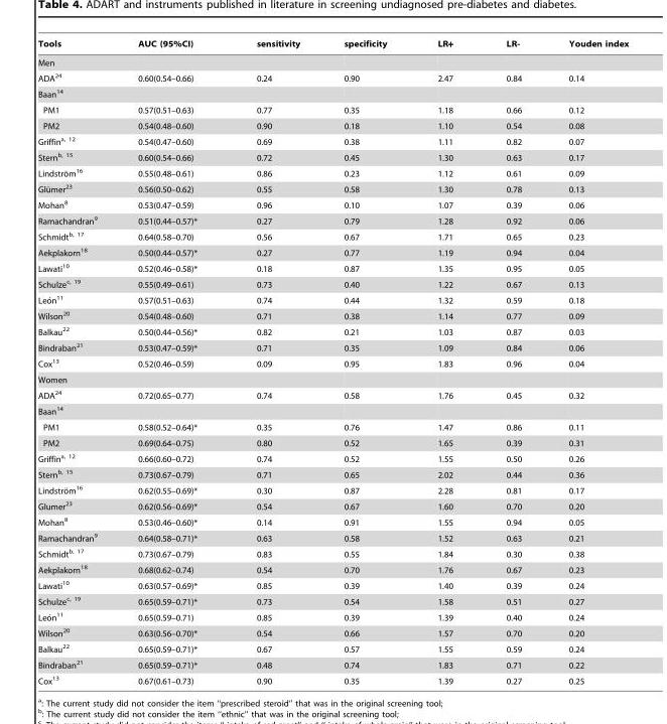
<table><thead><tr><td>Tools</td><td>AUC (95%CI)</td><td>sensitivity</td><td>specificity</td><td>LR+</td><td>LR-</td><td>Youden index</td></tr></thead><tbody><tr><td colspan="7">Men</td></tr><tr><td>ADA<sup>24</sup></td><td>0.60(0.54–0.66)</td><td>0.24</td><td>0.90</td><td>2.47</td><td>0.84</td><td>0.14</td></tr><tr><td colspan="7">Baan<sup>14</sup></td></tr><tr><td>PM1</td><td>0.57(0.51–0.63)</td><td>0.77</td><td>0.35</td><td>1.18</td><td>0.66</td><td>0.12</td></tr><tr><td>PM2</td><td>0.54(0.48–0.60)</td><td>0.90</td><td>0.18</td><td>1.10</td><td>0.54</td><td>0.08</td></tr><tr><td>Griffina, 12</td><td>0.54(0.47–0.60)</td><td>0.69</td><td>0.38</td><td>1.11</td><td>0.82</td><td>0.07</td></tr><tr><td>Stern<sup>b, 15</sup></td><td>0.60(0.54–0.66)</td><td>0.72</td><td>0.45</td><td>1.30</td><td>0.63</td><td>0.17</td></tr><tr><td>Lindstro¨m16</td><td>0.55(0.48–0.61)</td><td>0.86</td><td>0.23</td><td>1.12</td><td>0.61</td><td>0.09</td></tr><tr><td>Glu¨mer23</td><td>0.56(0.50–0.62)</td><td>0.55</td><td>0.58</td><td>1.30</td><td>0.78</td><td>0.13</td></tr><tr><td>Mohan<sup>8</sup></td><td>0.53(0.47–0.59)</td><td>0.96</td><td>0.10</td><td>1.07</td><td>0.39</td><td>0.06</td></tr><tr><td>Ramachandran<sup>9</sup></td><td>0.51(0.44–0.57)*</td><td>0.27</td><td>0.79</td><td>1.28</td><td>0.92</td><td>0.06</td></tr><tr><td>Schmidt<sup>b, 17</sup></td><td>0.64(0.58–0.70)</td><td>0.56</td><td>0.67</td><td>1.71</td><td>0.65</td><td>0.23</td></tr><tr><td>Aekplakorn<sup>18</sup></td><td>0.50(0.44–0.57)*</td><td>0.27</td><td>0.77</td><td>1.19</td><td>0.94</td><td>0.04</td></tr><tr><td>Lawati<sup>10</sup></td><td>0.52(0.46–0.58)*</td><td>0.18</td><td>0.87</td><td>1.35</td><td>0.95</td><td>0.05</td></tr><tr><td>Schulze<sup>c, 19</sup></td><td>0.55(0.49–0.61)</td><td>0.73</td><td>0.40</td><td>1.22</td><td>0.67</td><td>0.13</td></tr><tr><td>Leo´n11</td><td>0.57(0.51–0.63)</td><td>0.74</td><td>0.44</td><td>1.32</td><td>0.59</td><td>0.18</td></tr><tr><td>Wilson<sup>20</sup></td><td>0.54(0.48–0.60)</td><td>0.71</td><td>0.38</td><td>1.14</td><td>0.77</td><td>0.09</td></tr><tr><td>Balkau<sup>22</sup></td><td>0.50(0.44–0.56)*</td><td>0.82</td><td>0.21</td><td>1.03</td><td>0.87</td><td>0.03</td></tr><tr><td>Bindraban<sup>21</sup></td><td>0.53(0.47–0.59)*</td><td>0.71</td><td>0.35</td><td>1.09</td><td>0.84</td><td>0.06</td></tr><tr><td>Cox<sup>13</sup></td><td>0.52(0.46–0.59)</td><td>0.09</td><td>0.95</td><td>1.83</td><td>0.96</td><td>0.04</td></tr><tr><td colspan="7">Women</td></tr><tr><td>ADA<sup>24</sup></td><td>0.72(0.65–0.77)</td><td>0.74</td><td>0.58</td><td>1.76</td><td>0.45</td><td>0.32</td></tr><tr><td colspan="7">Baan<sup>14</sup></td></tr><tr><td>PM1</td><td>0.58(0.52–0.64)*</td><td>0.35</td><td>0.76</td><td>1.47</td><td>0.86</td><td>0.11</td></tr><tr><td>PM2</td><td>0.69(0.64–0.75)</td><td>0.80</td><td>0.52</td><td>1.65</td><td>0.39</td><td>0.31</td></tr><tr><td>Griffina, 12</td><td>0.66(0.60–0.72)</td><td>0.74</td><td>0.52</td><td>1.55</td><td>0.50</td><td>0.26</td></tr><tr><td>Stern<sup>b, 15</sup></td><td>0.73(0.67–0.79)</td><td>0.71</td><td>0.65</td><td>2.02</td><td>0.44</td><td>0.36</td></tr><tr><td>Lindstro¨m16</td><td>0.62(0.55–0.69)*</td><td>0.30</td><td>0.87</td><td>2.28</td><td>0.81</td><td>0.17</td></tr><tr><td>Glumer<sup>23</sup></td><td>0.62(0.56–0.69)*</td><td>0.54</td><td>0.67</td><td>1.60</td><td>0.70</td><td>0.20</td></tr><tr><td>Mohan<sup>8</sup></td><td>0.53(0.46–0.60)*</td><td>0.14</td><td>0.91</td><td>1.55</td><td>0.94</td><td>0.05</td></tr><tr><td>Ramachandran<sup>9</sup></td><td>0.64(0.58–0.71)*</td><td>0.63</td><td>0.58</td><td>1.52</td><td>0.63</td><td>0.21</td></tr><tr><td>Schmidt<sup>b, 17</sup></td><td>0.73(0.67–0.79)</td><td>0.83</td><td>0.55</td><td>1.84</td><td>0.30</td><td>0.38</td></tr><tr><td>Aekplakorn<sup>18</sup></td><td>0.68(0.62–0.74)</td><td>0.54</td><td>0.70</td><td>1.76</td><td>0.67</td><td>0.23</td></tr><tr><td>Lawati<sup>10</sup></td><td>0.63(0.57–0.69)*</td><td>0.85</td><td>0.39</td><td>1.40</td><td>0.39</td><td>0.24</td></tr><tr><td>Schulze<sup>c, 19</sup></td><td>0.65(0.59–0.71)*</td><td>0.73</td><td>0.54</td><td>1.58</td><td>0.51</td><td>0.27</td></tr><tr><td>Leo´n11</td><td>0.65(0.59–0.71)</td><td>0.85</td><td>0.39</td><td>1.39</td><td>0.40</td><td>0.24</td></tr><tr><td>Wilson<sup>20</sup></td><td>0.63(0.56–0.70)*</td><td>0.54</td><td>0.66</td><td>1.57</td><td>0.70</td><td>0.20</td></tr><tr><td>Balkau<sup>22</sup></td><td>0.65(0.59–0.71)*</td><td>0.67</td><td>0.57</td><td>1.55</td><td>0.59</td><td>0.24</td></tr><tr><td>Bindraban<sup>21</sup></td><td>0.65(0.59–0.71)*</td><td>0.48</td><td>0.74</td><td>1.83</td><td>0.71</td><td>0.22</td></tr><tr><td>Cox<sup>13</sup></td><td>0.67(0.61–0.73)</td><td>0.90</td><td>0.35</td><td>1.39</td><td>0.27</td><td>0.25</td></tr></tbody></table>